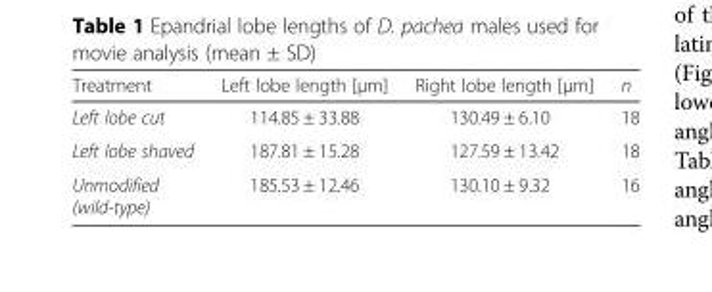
<table><thead><tr><td>Treatment</td><td>Left lobe length [μm]</td><td>Right lobe length [μm]</td><td>n</td></tr></thead><tbody><tr><td>Left lobe cut</td><td>114.85 ± 33.88</td><td>130.49 ± 6.10</td><td>18</td></tr><tr><td>Left lobe shaved</td><td>187.81 ± 15.28</td><td>127.59 ± 13.42</td><td>18</td></tr><tr><td>Unmodified (wild-type)</td><td>185.53 ± 12.46</td><td>130.10 ± 9.32</td><td>16</td></tr></tbody></table>